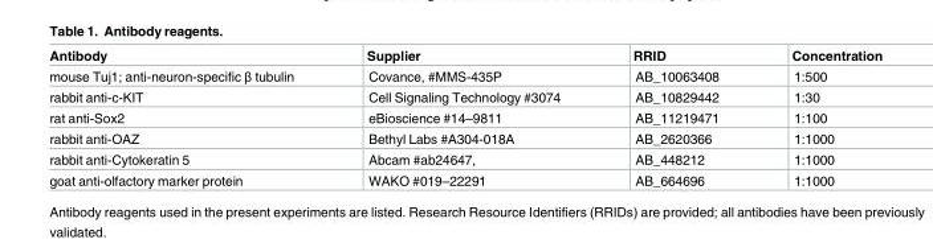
<table><thead><tr><td>Antibody</td><td>Supplier</td><td>RRID</td><td>Concentration</td></tr></thead><tbody><tr><td>mouse Tuj1; anti-neuron-specific β tubulin</td><td>Covance, #MMS-435P</td><td>AB_10063408</td><td>1:500</td></tr><tr><td>rabbit anti-c-KIT</td><td>Cell Signaling Technology #3074</td><td>AB_10829442</td><td>1:30</td></tr><tr><td>rat anti-Sox2</td><td>eBioscience #14–9811</td><td>AB_11219471</td><td>1:100</td></tr><tr><td>rabbit anti-OAZ</td><td>Bethyl Labs #A304-018A</td><td>AB_2620366</td><td>1:1000</td></tr><tr><td>rabbit anti-Cytokeratin 5</td><td>Abcam #ab24647,</td><td>AB_448212</td><td>1:1000</td></tr><tr><td>goat anti-olfactory marker protein</td><td>WAKO #019–22291</td><td>AB_664696</td><td>1:1000</td></tr></tbody></table>